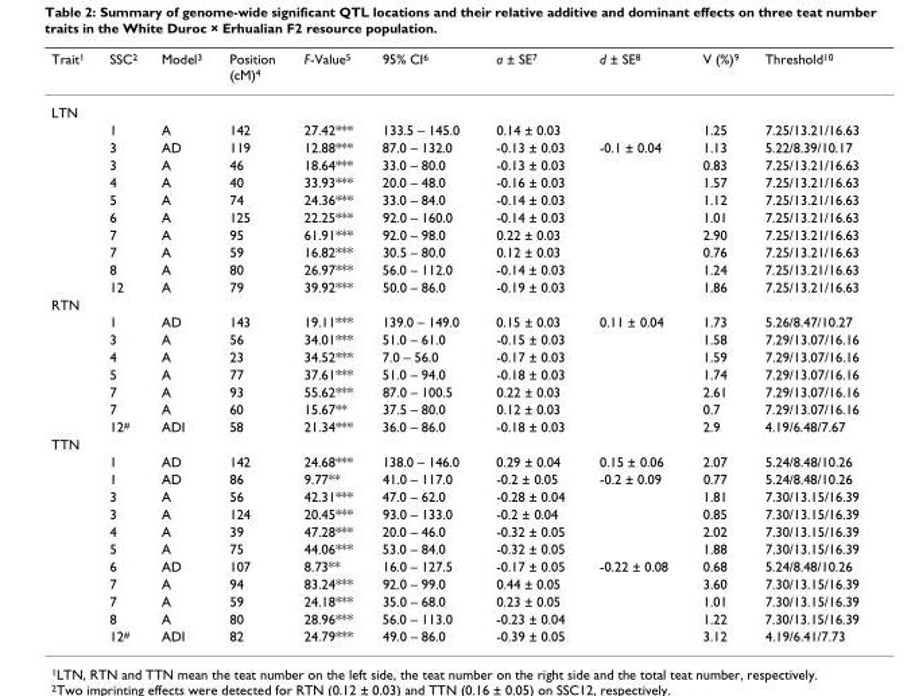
<table><thead><tr><td>Trait<sup>1</sup></td><td>SSC<sup>2</sup></td><td>Model<sup>3</sup></td><td>Position (cM)<sup>4</sup></td><td>F-Value<sup>5</sup></td><td>95% CI<sup>6</sup></td><td>a ± SE<sup>7</sup></td><td>d ± SE<sup>8</sup></td><td>V (%)<sup>9</sup></td><td>Threshold<sup>10</sup></td></tr></thead><tbody><tr><td colspan="10">LTN</td></tr><tr><td></td><td>1</td><td>A</td><td>142</td><td>27.42***</td><td>133.5 – 145.0</td><td>0.14 ± 0.03</td><td></td><td>1.25</td><td>7.25/13.21/16.63</td></tr><tr><td></td><td>3</td><td>AD</td><td>119</td><td>12.88***</td><td>87.0 – 132.0</td><td>-0.13 ± 0.03</td><td>-0.1 ± 0.04</td><td>1.13</td><td>5.22/8.39/10.17</td></tr><tr><td></td><td>3</td><td>A</td><td>46</td><td>18.64***</td><td>33.0 – 80.0</td><td>-0.13 ± 0.03</td><td></td><td>0.83</td><td>7.25/13.21/16.63</td></tr><tr><td></td><td>4</td><td>A</td><td>40</td><td>33.93***</td><td>20.0 – 48.0</td><td>-0.16 ± 0.03</td><td></td><td>1.57</td><td>7.25/13.21/16.63</td></tr><tr><td></td><td>5</td><td>A</td><td>74</td><td>24.36***</td><td>33.0 – 84.0</td><td>-0.14 ± 0.03</td><td></td><td>1.12</td><td>7.25/13.21/16.63</td></tr><tr><td></td><td>6</td><td>A</td><td>125</td><td>22.25***</td><td>92.0 – 160.0</td><td>-0.14 ± 0.03</td><td></td><td>1.01</td><td>7.25/13.21/16.63</td></tr><tr><td></td><td>7</td><td>A</td><td>95</td><td>61.91***</td><td>92.0 – 98.0</td><td>0.22 ± 0.03</td><td></td><td>2.90</td><td>7.25/13.21/16.63</td></tr><tr><td></td><td>7</td><td>A</td><td>59</td><td>16.82***</td><td>30.5 – 80.0</td><td>0.12 ± 0.03</td><td></td><td>0.76</td><td>7.25/13.21/16.63</td></tr><tr><td></td><td>8</td><td>A</td><td>80</td><td>26.97***</td><td>56.0 – 112.0</td><td>-0.14 ± 0.03</td><td></td><td>1.24</td><td>7.25/13.21/16.63</td></tr><tr><td></td><td>12</td><td>A</td><td>79</td><td>39.92***</td><td>50.0 – 86.0</td><td>-0.19 ± 0.03</td><td></td><td>1.86</td><td>7.25/13.21/16.63</td></tr><tr><td colspan="10">RTN</td></tr><tr><td></td><td>1</td><td>AD</td><td>143</td><td>19.11***</td><td>139.0 – 149.0</td><td>0.15 ± 0.03</td><td>0.11 ± 0.04</td><td>1.73</td><td>5.26/8.47/10.27</td></tr><tr><td></td><td>3</td><td>A</td><td>56</td><td>34.01***</td><td>51.0 – 61.0</td><td>-0.15 ± 0.03</td><td></td><td>1.58</td><td>7.29/13.07/16.16</td></tr><tr><td></td><td>4</td><td>A</td><td>23</td><td>34.52***</td><td>7.0 – 56.0</td><td>-0.17 ± 0.03</td><td></td><td>1.59</td><td>7.29/13.07/16.16</td></tr><tr><td></td><td>5</td><td>A</td><td>77</td><td>37.61***</td><td>51.0 – 94.0</td><td>-0.18 ± 0.03</td><td></td><td>1.74</td><td>7.29/13.07/16.16</td></tr><tr><td></td><td>7</td><td>A</td><td>93</td><td>55.62***</td><td>87.0 – 100.5</td><td>0.22 ± 0.03</td><td></td><td>2.61</td><td>7.29/13.07/16.16</td></tr><tr><td></td><td>7</td><td>A</td><td>60</td><td>15.67**</td><td>37.5 – 80.0</td><td>0.12 ± 0.03</td><td></td><td>0.7</td><td>7.29/13.07/16.16</td></tr><tr><td></td><td>12<sup>#</sup></td><td>ADI</td><td>58</td><td>21.34***</td><td>36.0 – 86.0</td><td>-0.18 ± 0.03</td><td></td><td>2.9</td><td>4.19/6.48/7.67</td></tr><tr><td colspan="10">TTN</td></tr><tr><td></td><td>1</td><td>AD</td><td>142</td><td>24.68***</td><td>138.0 – 146.0</td><td>0.29 ± 0.04</td><td>0.15 ± 0.06</td><td>2.07</td><td>5.24/8.48/10.26</td></tr><tr><td></td><td>1</td><td>AD</td><td>86</td><td>9.77**</td><td>41.0 – 117.0</td><td>-0.2 ± 0.05</td><td>-0.2 ± 0.09</td><td>0.77</td><td>5.24/8.48/10.26</td></tr><tr><td></td><td>3</td><td>A</td><td>56</td><td>42.31***</td><td>47.0 – 62.0</td><td>-0.28 ± 0.04</td><td></td><td>1.81</td><td>7.30/13.15/16.39</td></tr><tr><td></td><td>3</td><td>A</td><td>124</td><td>20.45***</td><td>93.0 – 133.0</td><td>-0.2 ± 0.04</td><td></td><td>0.85</td><td>7.30/13.15/16.39</td></tr><tr><td></td><td>4</td><td>A</td><td>39</td><td>47.28***</td><td>20.0 – 46.0</td><td>-0.32 ± 0.05</td><td></td><td>2.02</td><td>7.30/13.15/16.39</td></tr><tr><td></td><td>5</td><td>A</td><td>75</td><td>44.06***</td><td>53.0 – 84.0</td><td>-0.32 ± 0.05</td><td></td><td>1.88</td><td>7.30/13.15/16.39</td></tr><tr><td></td><td>6</td><td>AD</td><td>107</td><td>8.73**</td><td>16.0 – 127.5</td><td>-0.17 ± 0.05</td><td>-0.22 ± 0.08</td><td>0.68</td><td>5.24/8.48/10.26</td></tr><tr><td></td><td>7</td><td>A</td><td>94</td><td>83.24***</td><td>92.0 – 99.0</td><td>0.44 ± 0.05</td><td></td><td>3.60</td><td>7.30/13.15/16.39</td></tr><tr><td></td><td>7</td><td>A</td><td>59</td><td>24.18***</td><td>35.0 – 68.0</td><td>0.23 ± 0.05</td><td></td><td>1.01</td><td>7.30/13.15/16.39</td></tr><tr><td></td><td>8</td><td>A</td><td>80</td><td>28.96***</td><td>56.0 – 113.0</td><td>-0.23 ± 0.04</td><td></td><td>1.22</td><td>7.30/13.15/16.39</td></tr><tr><td></td><td>12<sup>#</sup></td><td>ADI</td><td>82</td><td>24.79***</td><td>49.0 – 86.0</td><td>-0.39 ± 0.05</td><td></td><td>3.12</td><td>4.19/6.41/7.73</td></tr></tbody></table>